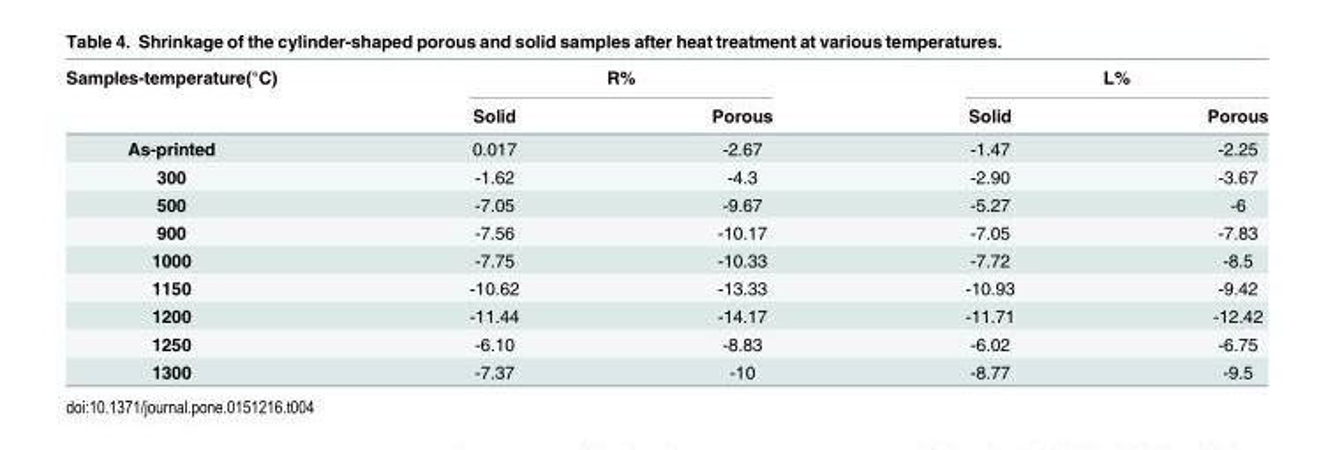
<table><thead><tr><td rowspan="2">Samples-temperature(°C)</td><td colspan="2">R%</td><td colspan="2">L%</td></tr><tr><td>Solid</td><td>Porous</td><td>Solid</td><td>Porous</td></tr></thead><tbody><tr><td>As-printed</td><td>0.017</td><td>-2.67</td><td>-1.47</td><td>-2.25</td></tr><tr><td>300</td><td>-1.62</td><td>-4.3</td><td>-2.90</td><td>-3.67</td></tr><tr><td>500</td><td>-7.05</td><td>-9.67</td><td>-5.27</td><td>-6</td></tr><tr><td>900</td><td>-7.56</td><td>-10.17</td><td>-7.05</td><td>-7.83</td></tr><tr><td>1000</td><td>-7.75</td><td>-10.33</td><td>-7.72</td><td>-8.5</td></tr><tr><td>1150</td><td>-10.62</td><td>-13.33</td><td>-10.93</td><td>-9.42</td></tr><tr><td>1200</td><td>-11.44</td><td>-14.17</td><td>-11.71</td><td>-12.42</td></tr><tr><td>1250</td><td>-6.10</td><td>-8.83</td><td>-6.02</td><td>-6.75</td></tr><tr><td>1300</td><td>-7.37</td><td>-10</td><td>-8.77</td><td>-9.5</td></tr></tbody></table>